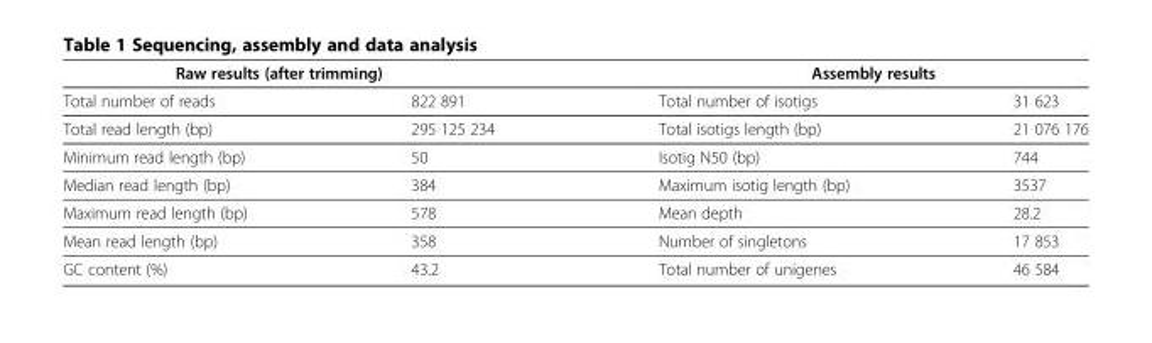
<table><thead><tr><td colspan="2">Raw results (after trimming)</td><td colspan="2">Assembly results</td></tr><tr><td>Total number of reads</td><td>822 891</td><td>Total number of isotigs</td><td>31 623</td></tr></thead><tbody><tr><td>Total read length (bp)</td><td>295 125 234</td><td>Total isotigs length (bp)</td><td>21 076 176</td></tr><tr><td>Minimum read length (bp)</td><td>50</td><td>Isotig N50 (bp)</td><td>744</td></tr><tr><td>Median read length (bp)</td><td>384</td><td>Maximum isotig length (bp)</td><td>3537</td></tr><tr><td>Maximum read length (bp)</td><td>578</td><td>Mean depth</td><td>28.2</td></tr><tr><td>Mean read length (bp)</td><td>358</td><td>Number of singletons</td><td>17 853</td></tr><tr><td>GC content (%)</td><td>43.2</td><td>Total number of unigenes</td><td>46 584</td></tr></tbody></table>